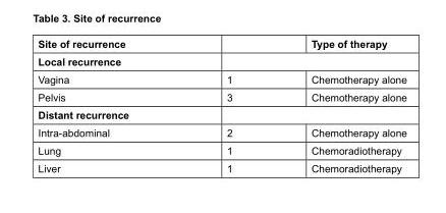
<table><tbody><tr><td>Site of recurrence</td><td></td><td>Type of therapy</td></tr><tr><td colspan="3">Local recurrence</td></tr><tr><td>Vagina</td><td>1</td><td>Chemotherapy alone</td></tr><tr><td>Pelvis</td><td>3</td><td>Chemotherapy alone</td></tr><tr><td colspan="3">Distant recurrence</td></tr><tr><td>Intra-abdominal</td><td>2</td><td>Chemotherapy alone</td></tr><tr><td>Lung</td><td>1</td><td>Chemoradiotherapy</td></tr><tr><td>Liver</td><td>1</td><td>Chemoradiotherapy</td></tr></tbody></table>